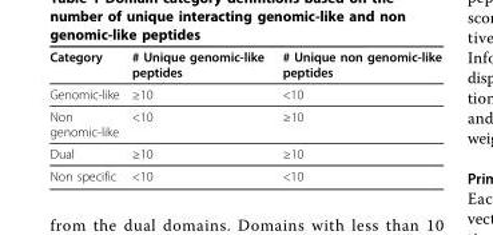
<table><thead><tr><td>Category</td><td># Unique genomic-like peptides</td><td># Unique non genomic-like peptides</td></tr></thead><tbody><tr><td>Genomic-like</td><td>≥10</td><td>&lt;10</td></tr><tr><td>Non genomic-like</td><td>&lt;10</td><td>≥10</td></tr><tr><td>Dual</td><td>≥10</td><td>≥10</td></tr><tr><td>Non specific</td><td>&lt;10</td><td>&lt;10</td></tr></tbody></table>